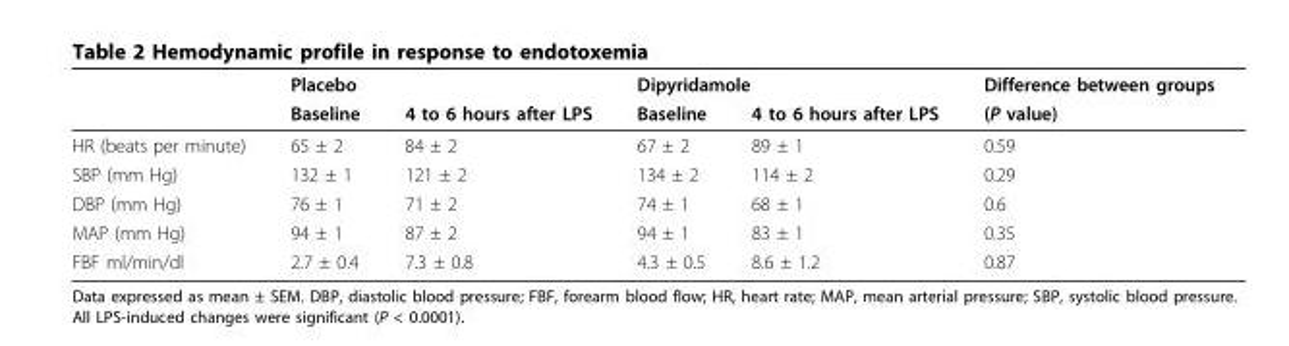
<table><thead><tr><td rowspan="2"></td><td colspan="2">Placebo</td><td colspan="2">Dipyridamole</td><td rowspan="2">Difference between groups (P value)</td></tr><tr><td>Baseline</td><td>4 to 6 hours after LPS</td><td>Baseline</td><td>4 to 6 hours after LPS</td></tr></thead><tbody><tr><td>HR (beats per minute)</td><td>65 ± 2</td><td>84 ± 2</td><td>67 ± 2</td><td>89 ± 1</td><td>0.59</td></tr><tr><td>SBP (mm Hg)</td><td>132 ± 1</td><td>121 ± 2</td><td>134 ± 2</td><td>114 ± 2</td><td>0.29</td></tr><tr><td>DBP (mm Hg)</td><td>76 ± 1</td><td>71 ± 2</td><td>74 ± 1</td><td>68 ± 1</td><td>0.6</td></tr><tr><td>MAP (mm Hg)</td><td>94 ± 1</td><td>87 ± 2</td><td>94 ± 1</td><td>83 ± 1</td><td>0.35</td></tr><tr><td>FBF ml/min/dl</td><td>2.7 ± 0.4</td><td>7.3 ± 0.8</td><td>4.3 ± 0.5</td><td>8.6 ± 1.2</td><td>0.87</td></tr></tbody></table>